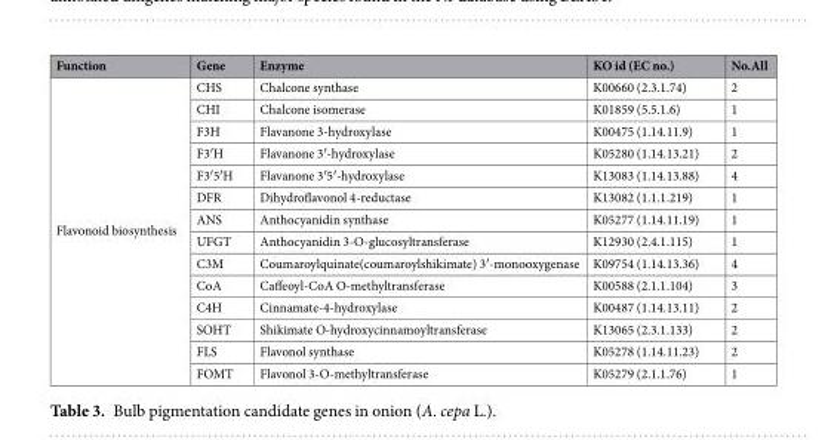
<table><thead><tr><td>Function</td><td>Gene</td><td>Enzyme</td><td>KO id (EC no.)</td><td>No.All</td></tr></thead><tbody><tr><td rowspan="14">Flavonoid biosynthesis</td><td>CHS</td><td>Chalcone synthase</td><td>K00660 (2.3.1.74)</td><td>2</td></tr><tr><td>CHI</td><td>Chalcone isomerase</td><td>K01859 (5.5.1.6)</td><td>1</td></tr><tr><td>F3H</td><td>Flavanone 3-hydroxylase</td><td>K00475 (1.14.11.9)</td><td>1</td></tr><tr><td>F3′H</td><td>Flavanone 3′-hydroxylase</td><td>K05280 (1.14.13.21)</td><td>2</td></tr><tr><td>F3′5′H</td><td>Flavanone 3′5′-hydroxylase</td><td>K13083 (1.14.13.88)</td><td>4</td></tr><tr><td>DFR</td><td>Dihydroflavonol 4-reductase</td><td>K13082 (1.1.1.219)</td><td>1</td></tr><tr><td>ANS</td><td>Anthocyanidin synthase</td><td>K05277 (1.14.11.19)</td><td>1</td></tr><tr><td>UFGT</td><td>Anthocyanidin 3-O-glucosyltransferase</td><td>K12930 (2.4.1.115)</td><td>1</td></tr><tr><td>C3M</td><td>Coumaroylquinate(coumaroylshikimate) 3′-monooxygenase</td><td>K09754 (1.14.13.36)</td><td>4</td></tr><tr><td>CoA</td><td>Caffeoyl-CoA O-methyltransferase</td><td>K00588 (2.1.1.104)</td><td>3</td></tr><tr><td>C4H</td><td>Cinnamate-4-hydroxylase</td><td>K00487 (1.14.13.11)</td><td>2</td></tr><tr><td>SOHT</td><td>Shikimate O-hydroxycinnamoyltransferase</td><td>K13065 (2.3.1.133)</td><td>2</td></tr><tr><td>FLS</td><td>Flavonol synthase</td><td>K05278 (1.14.11.23)</td><td>2</td></tr><tr><td>FOMT</td><td>Flavonol 3-O-methyltransferase</td><td>K05279 (2.1.1.76)</td><td>1</td></tr></tbody></table>